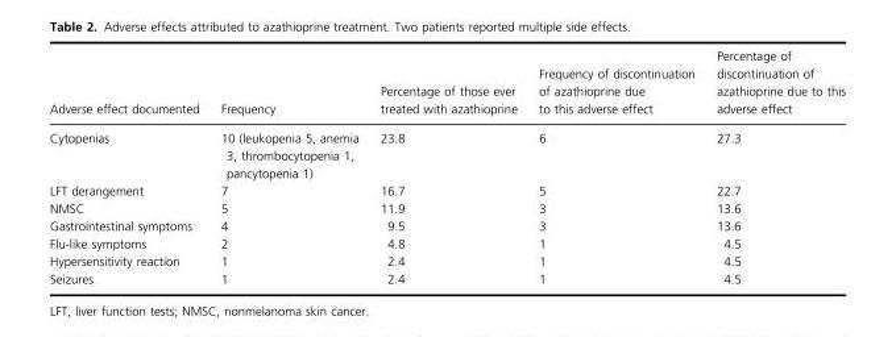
<table><thead><tr><td>Adverse effect documented</td><td>Frequency</td><td>Percentage of those ever treated with azathioprine</td><td>Frequency of discontinuation of azathioprine due to this adverse effect</td><td>Percentage of discontinuation of azathioprine due to this adverse effect</td></tr></thead><tbody><tr><td>Cytopenias</td><td>10 (leukopenia 5, anemia 3, thrombocytopenia 1, pancytopenia 1)</td><td>23.8</td><td>6</td><td>27.3</td></tr><tr><td>LFT derangement</td><td>7</td><td>16.7</td><td>5</td><td>22.7</td></tr><tr><td>NMSC</td><td>5</td><td>11.9</td><td>3</td><td>13.6</td></tr><tr><td>Gastrointestinal symptoms</td><td>4</td><td>9.5</td><td>3</td><td>13.6</td></tr><tr><td>Flu-like symptoms</td><td>2</td><td>4.8</td><td>1</td><td>4.5</td></tr><tr><td>Hypersensitivity reaction</td><td>1</td><td>2.4</td><td>1</td><td>4.5</td></tr><tr><td>Seizures</td><td>1</td><td>2.4</td><td>1</td><td>4.5</td></tr></tbody></table>